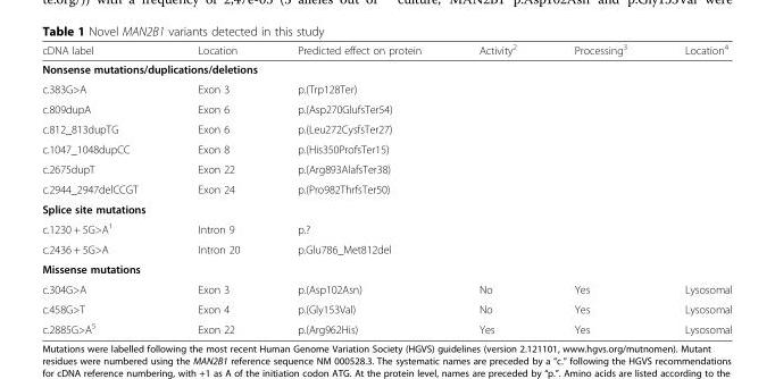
<table><thead><tr><td>cDNA label</td><td>Location</td><td>Predicted effect on protein</td><td>Activity<sup>2</sup></td><td>Processing<sup>3</sup></td><td>Location<sup>4</sup></td></tr></thead><tbody><tr><td colspan="6">Nonsense mutations/duplications/deletions</td></tr><tr><td>c.383G&gt;A</td><td>Exon 3</td><td>p.(Trp128Ter)</td><td></td><td></td><td></td></tr><tr><td>c.809dupA</td><td>Exon 6</td><td>p.(Asp270GlufsTer54)</td><td></td><td></td><td></td></tr><tr><td>c.812_813dupTG</td><td>Exon 6</td><td>p.(Leu272CysfsTer27)</td><td></td><td></td><td></td></tr><tr><td>c.1047_1048dupCC</td><td>Exon 8</td><td>p.(His350ProfsTer15)</td><td></td><td></td><td></td></tr><tr><td>c.2675dupT</td><td>Exon 22</td><td>p.(Arg893AlafsTer38)</td><td></td><td></td><td></td></tr><tr><td>c.2944_2947delCCGT</td><td>Exon 24</td><td>p.(Pro982ThrfsTer50)</td><td></td><td></td><td></td></tr><tr><td colspan="6">Splice site mutations</td></tr><tr><td>c.1230 + 5G&gt;A<sup>1</sup></td><td>Intron 9</td><td>p.?</td><td></td><td></td><td></td></tr><tr><td>c.2436 + 5G&gt;A</td><td>Intron 20</td><td>p.Glu786_Met812del</td><td></td><td></td><td></td></tr><tr><td colspan="6">Missense mutations</td></tr><tr><td>c.304G&gt;A</td><td>Exon 3</td><td>p.(Asp102Asn)</td><td>No</td><td>Yes</td><td>Lysosomal</td></tr><tr><td>c.458G&gt;T</td><td>Exon 4</td><td>p.(Gly153Val)</td><td>No</td><td>Yes</td><td>Lysosomal</td></tr><tr><td>c.2885G&gt;A<sup>5</sup></td><td>Exon 22</td><td>p.(Arg962His)</td><td>Yes</td><td>Yes</td><td>Lysosomal</td></tr></tbody></table>